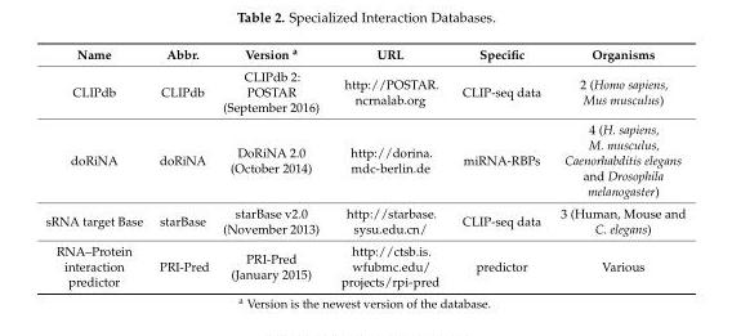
<table><thead><tr><td>Name</td><td>Abbr.</td><td>Version <sup>a</sup></td><td>URL</td><td>Specific</td><td>Organisms</td></tr></thead><tbody><tr><td>CLIPdb</td><td>CLIPdb</td><td>CLIPdb 2: POSTAR (September 2016)</td><td>http://POSTAR. ncrnalab.org</td><td>CLIP-seq data</td><td>2 (Homo sapiens, Mus musculus)</td></tr><tr><td>doRiNA</td><td>doRiNA</td><td>DoRiNA 2.0 (October 2014)</td><td>http://dorina. mdc-berlin.de</td><td>miRNA-RBPs</td><td>4 (H. sapiens, M. musculus, Caenorhabditis elegans and Drosophila melanogaster)</td></tr><tr><td>sRNA target Base</td><td>starBase</td><td>starBase v2.0 (November 2013)</td><td>http://starbase. sysu.edu.cn/</td><td>CLIP-seq data</td><td>3 (Human, Mouse and C. elegans)</td></tr><tr><td>RNA–Protein interaction predictor</td><td>PRI-Pred</td><td>PRI-Pred (January 2015)</td><td>http://ctsb.is. wfubmc.edu/ projects/rpi-pred</td><td>predictor</td><td>Various</td></tr></tbody></table>